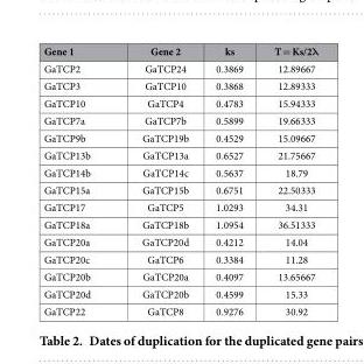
<table><thead><tr><td>Gene 1</td><td>Gene 2</td><td>ks</td><td>T = Ks/2λ</td></tr></thead><tbody><tr><td>GaTCP2</td><td>GaTCP24</td><td>0.3869</td><td>12.89667</td></tr><tr><td>GaTCP3</td><td>GaTCP10</td><td>0.3868</td><td>12.89333</td></tr><tr><td>GaTCP10</td><td>GaTCP4</td><td>0.4783</td><td>15.94333</td></tr><tr><td>GaTCP7a</td><td>GaTCP7b</td><td>0.5899</td><td>19.66333</td></tr><tr><td>GaTCP9b</td><td>GaTCP19b</td><td>0.4529</td><td>15.09667</td></tr><tr><td>GaTCP13b</td><td>GaTCP13a</td><td>0.6527</td><td>21.75667</td></tr><tr><td>GaTCP14b</td><td>GaTCP14c</td><td>0.5637</td><td>18.79</td></tr><tr><td>GaTCP15a</td><td>GaTCP15b</td><td>0.6751</td><td>22.50333</td></tr><tr><td>GaTCP17</td><td>GaTCP5</td><td>1.0293</td><td>34.31</td></tr><tr><td>GaTCP18a</td><td>GaTCP18b</td><td>1.0954</td><td>36.51333</td></tr><tr><td>GaTCP20a</td><td>GaTCP20d</td><td>0.4212</td><td>14.04</td></tr><tr><td>GaTCP20c</td><td>GaTCP6</td><td>0.3384</td><td>11.28</td></tr><tr><td>GaTCP20b</td><td>GaTCP20a</td><td>0.4097</td><td>13.65667</td></tr><tr><td>GaTCP20d</td><td>GaTCP20b</td><td>0.4599</td><td>15.33</td></tr><tr><td>GaTCP22</td><td>GaTCP8</td><td>0.9276</td><td>30.92</td></tr></tbody></table>